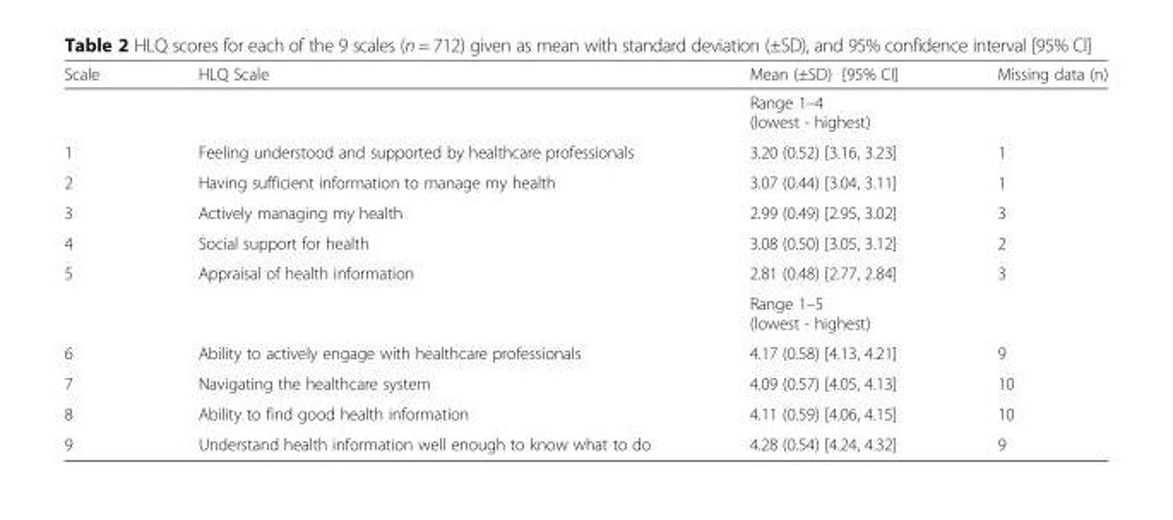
<table><thead><tr><td>Scale</td><td>HLQ Scale</td><td>Mean (±SD) [95% CI]</td><td>Missing data (n)</td></tr></thead><tbody><tr><td></td><td></td><td>Range 1–4 (lowest - highest)</td><td></td></tr><tr><td>1</td><td>Feeling understood and supported by healthcare professionals</td><td>3.20 (0.52) [3.16, 3.23]</td><td>1</td></tr><tr><td>2</td><td>Having sufficient information to manage my health</td><td>3.07 (0.44) [3.04, 3.11]</td><td>1</td></tr><tr><td>3</td><td>Actively managing my health</td><td>2.99 (0.49) [2.95, 3.02]</td><td>3</td></tr><tr><td>4</td><td>Social support for health</td><td>3.08 (0.50) [3.05, 3.12]</td><td>2</td></tr><tr><td rowspan="2">5</td><td>Appraisal of health information</td><td>2.81 (0.48) [2.77, 2.84]</td><td>3</td></tr><tr><td></td><td>Range 1–5 (lowest - highest)</td><td></td></tr><tr><td>6</td><td>Ability to actively engage with healthcare professionals</td><td>4.17 (0.58) [4.13, 4.21]</td><td>9</td></tr><tr><td>7</td><td>Navigating the healthcare system</td><td>4.09 (0.57) [4.05, 4.13]</td><td>10</td></tr><tr><td>8</td><td>Ability to find good health information</td><td>4.11 (0.59) [4.06, 4.15]</td><td>10</td></tr><tr><td>9</td><td>Understand health information well enough to know what to do</td><td>4.28 (0.54) [4.24, 4.32]</td><td>9</td></tr></tbody></table>